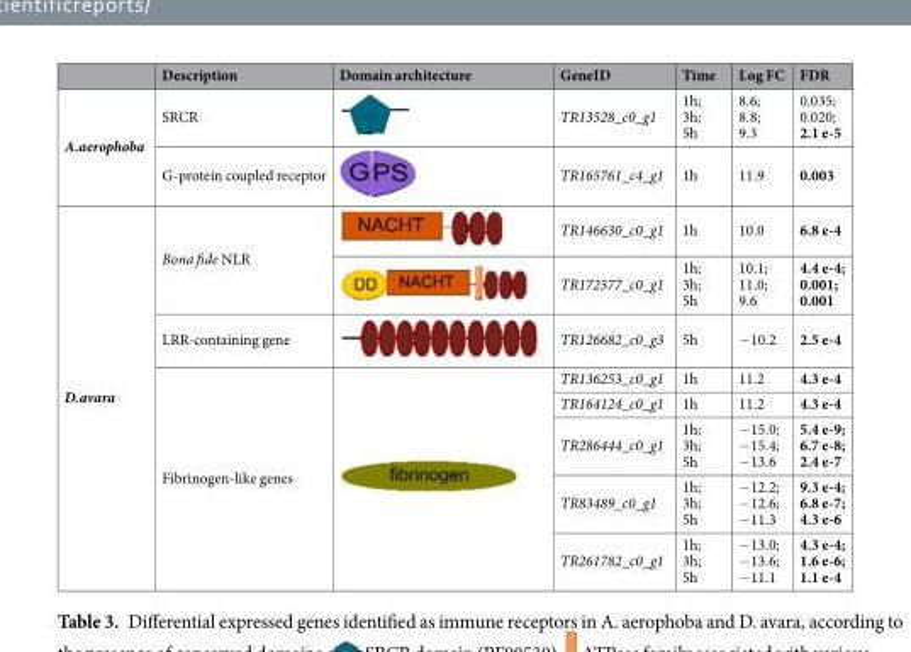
<table><thead><tr><td></td><td>Description</td><td>Domain architecture</td><td>GeneID</td><td>Time</td><td>Log FC</td><td>FDR</td></tr></thead><tbody><tr><td rowspan="2">A.aerophoba</td><td>SRCR</td><td></td><td>TR13528_c0_g1</td><td>1h; 3h; 5h</td><td>8.6; 8.8; 9.3</td><td>0.035; 0.020; 2.1 e-5</td></tr><tr><td>G-protein coupled receptor</td><td></td><td>TR165761_c4_g1</td><td>1h</td><td>11.9</td><td>0.003</td></tr><tr><td rowspan="8">D.avara</td><td rowspan="2">Bona fide NLR</td><td></td><td>TR146630_c0_g1</td><td>1h</td><td>10.0</td><td>6.8 e-4</td></tr><tr><td></td><td>TR172577_c0_g1</td><td>1h; 3h; 5h</td><td>10.1; 11.0; 9.6</td><td>4.4 e-4; 0.001; 0.001</td></tr><tr><td>LRR-containing gene</td><td></td><td>TR126682_c0_g3</td><td>5h</td><td>−10.2</td><td>2.5 e-4</td></tr><tr><td rowspan="5">Fibrinogen-like genes</td><td rowspan="5"></td><td>TR136253_c0_g1</td><td>1h</td><td>11.2</td><td>4.3 e-4</td></tr><tr><td>TR164124_c0_g1</td><td>1h</td><td>11.2</td><td>4.3 e-4</td></tr><tr><td>TR286444_c0_g1</td><td>1h; 3h; 5h</td><td>−15.0; −15.4; −13.6</td><td>5.4 e-9; 6.7 e-8; 2.4 e-7</td></tr><tr><td>TR83489_c0_g1</td><td>1h; 3h; 5h</td><td>−12.2; −12.6; −11.3</td><td>9.3 e-4; 6.8 e-7; 4.3 e-6</td></tr><tr><td>TR261782_c0_g1</td><td>1h; 3h; 5h</td><td>−13.0; −13.6; −11.1</td><td>4.3 e-4; 1.6 e-6; 1.1 e-4</td></tr></tbody></table>